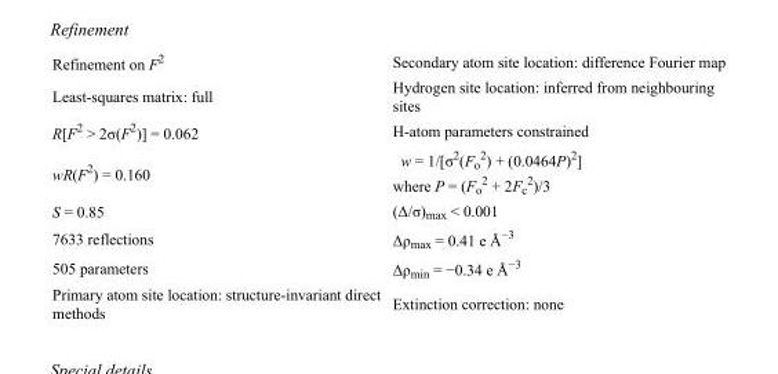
<table><tbody><tr><td>Refinement on F<sup>2</sup></td><td>Secondary atom site location: difference Fourier map</td></tr><tr><td>Least-squares matrix: full</td><td>Hydrogen site location: inferred from neighbouring sites</td></tr><tr><td>R[F<sup>2</sup> &gt; 2σ(F<sup>2</sup>)] = 0.062</td><td>H-atom parameters constrained</td></tr><tr><td>wR(F<sup>2</sup>) = 0.160</td><td>w = 1/[σ<sup>2</sup>(F<sub>o</sub> <sup>2</sup>) + (0.0464P)<sup>2</sup>] where P = (F<sub>o</sub> <sup>2</sup> + 2F<sub>c</sub> <sup>2</sup>)/3</td></tr><tr><td>S = 0.85</td><td>(Δ/σ)<sub>max</sub> &lt; 0.001</td></tr><tr><td>7633 reflections</td><td>Δρ<sub>max</sub> = 0.41 e Å<sup>−3</sup></td></tr><tr><td>505 parameters</td><td>Δρ<sub>min</sub> = −0.34 e Å<sup>−3</sup></td></tr><tr><td>Primary atom site location: structure-invariant direct methods</td><td>Extinction correction: none</td></tr></tbody></table>